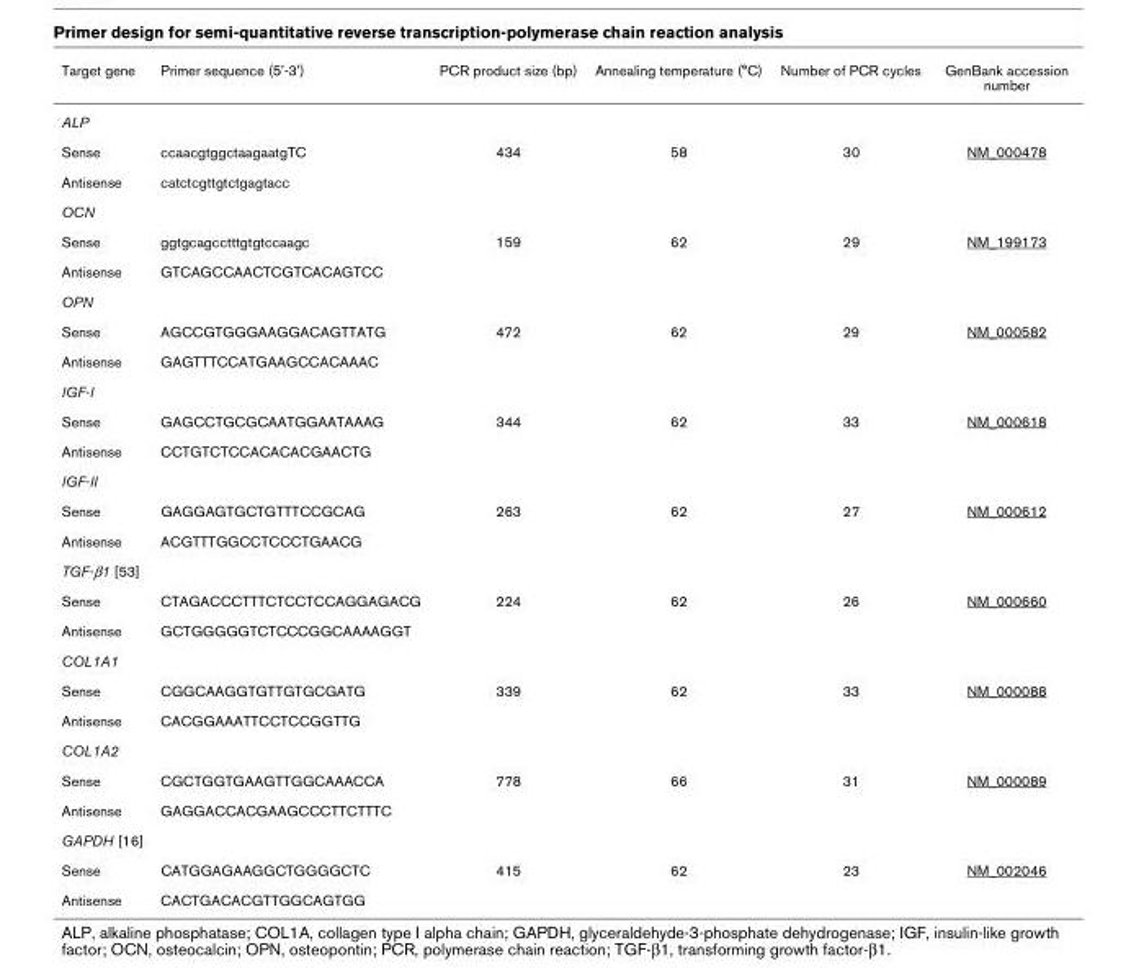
<table><thead><tr><td>Target gene</td><td>Primer sequence (5&#x27;-3&#x27;)</td><td>PCR product size (bp)</td><td>Annealing temperature (°C)</td><td>Number of PCR cycles</td><td>GenBank accession number</td></tr></thead><tbody><tr><td colspan="6">ALP</td></tr><tr><td>Sense</td><td>ccaacgtggctaagaatgTC</td><td>434</td><td>58</td><td>30</td><td>NM_000478</td></tr><tr><td>Antisense</td><td>catctcgttgtctgagtacc</td><td></td><td></td><td></td><td></td></tr><tr><td colspan="6">OCN</td></tr><tr><td>Sense</td><td>ggtgcagcctttgtgtccaagc</td><td>159</td><td>62</td><td>29</td><td>NM_199173</td></tr><tr><td>Antisense</td><td>GTCAGCCAACTCGTCACAGTCC</td><td></td><td></td><td></td><td></td></tr><tr><td colspan="6">OPN</td></tr><tr><td>Sense</td><td>AGCCGTGGGAAGGACAGTTATG</td><td>472</td><td>62</td><td>29</td><td>NM_000582</td></tr><tr><td>Antisense</td><td>GAGTTTCCATGAAGCCACAAAC</td><td></td><td></td><td></td><td></td></tr><tr><td colspan="6">IGF-I</td></tr><tr><td>Sense</td><td>GAGCCTGCGCAATGGAATAAAG</td><td>344</td><td>62</td><td>33</td><td>NM_000618</td></tr><tr><td>Antisense</td><td>CCTGTCTCCACACACGAACTG</td><td></td><td></td><td></td><td></td></tr><tr><td colspan="6">IGF-II</td></tr><tr><td>Sense</td><td>GAGGAGTGCTGTTTCCGCAG</td><td>263</td><td>62</td><td>27</td><td>NM_000612</td></tr><tr><td>Antisense</td><td>ACGTTTGGCCTCCCTGAACG</td><td></td><td></td><td></td><td></td></tr><tr><td colspan="6">TGF-β1 [53]</td></tr><tr><td>Sense</td><td>CTAGACCCTTTCTCCTCCAGGAGACG</td><td>224</td><td>62</td><td>26</td><td>NM_000660</td></tr><tr><td>Antisense</td><td>GCTGGGGGTCTCCCGGCAAAAGGT</td><td></td><td></td><td></td><td></td></tr><tr><td colspan="6">COL1A1</td></tr><tr><td>Sense</td><td>CGGCAAGGTGTTGTGCGATG</td><td>339</td><td>62</td><td>33</td><td>NM_000088</td></tr><tr><td>Antisense</td><td>CACGGAAATTCCTCCGGTTG</td><td></td><td></td><td></td><td></td></tr><tr><td colspan="6">COL1A2</td></tr><tr><td>Sense</td><td>CGCTGGTGAAGTTGGCAAACCA</td><td>778</td><td>66</td><td>31</td><td>NM_000089</td></tr><tr><td>Antisense</td><td>GAGGACCACGAAGCCCTTCTTTC</td><td></td><td></td><td></td><td></td></tr><tr><td colspan="6">GAPDH [16]</td></tr><tr><td>Sense</td><td>CATGGAGAAGGCTGGGGCTC</td><td>415</td><td>62</td><td>23</td><td>NM_002046</td></tr><tr><td>Antisense</td><td>CACTGACACGTTGGCAGTGG</td><td></td><td></td><td></td><td></td></tr></tbody></table>